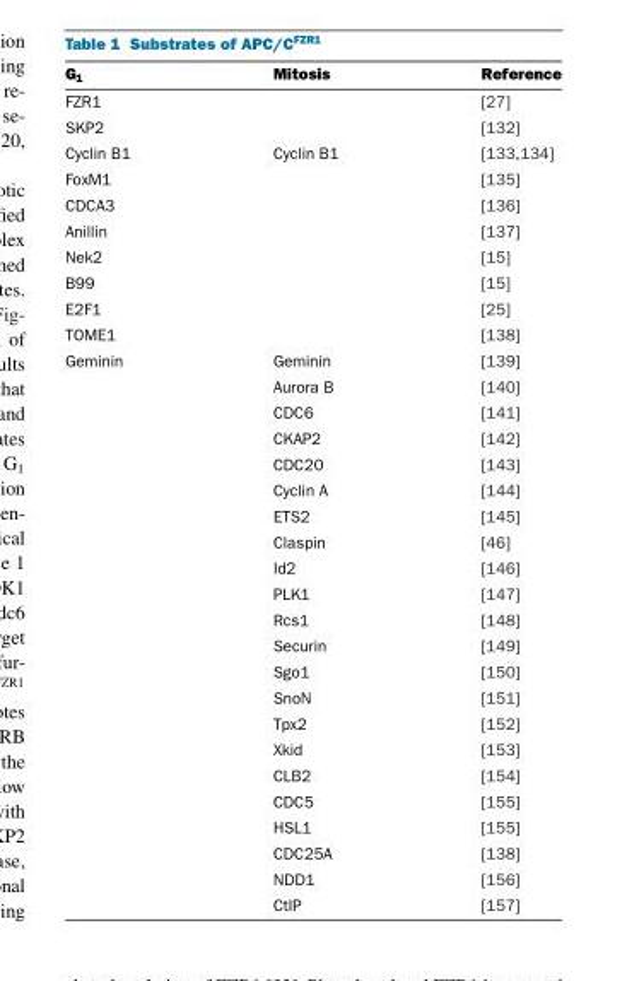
<table><thead><tr><td>G<sub>1</sub></td><td>Mitosis</td><td>Reference</td></tr></thead><tbody><tr><td>FZR1</td><td></td><td>[27]</td></tr><tr><td>SKP2</td><td></td><td>[132]</td></tr><tr><td>Cyclin B1</td><td>Cyclin B1</td><td>[133,134]</td></tr><tr><td>FoxM1</td><td></td><td>[135]</td></tr><tr><td>CDCA3</td><td></td><td>[136]</td></tr><tr><td>Anillin</td><td></td><td>[137]</td></tr><tr><td>Nek2</td><td></td><td>[15]</td></tr><tr><td>B99</td><td></td><td>[15]</td></tr><tr><td>E2F1</td><td></td><td>[25]</td></tr><tr><td>TOME1</td><td></td><td>[138]</td></tr><tr><td rowspan="22">Geminin</td><td>Geminin</td><td>[139]</td></tr><tr><td>Aurora B</td><td>[140]</td></tr><tr><td>CDC6</td><td>[141]</td></tr><tr><td>CKAP2</td><td>[142]</td></tr><tr><td>CDC20</td><td>[143]</td></tr><tr><td>Cyclin A</td><td>[144]</td></tr><tr><td>ETS2</td><td>[145]</td></tr><tr><td>Claspin</td><td>[46]</td></tr><tr><td>Id2</td><td>[146]</td></tr><tr><td>PLK1</td><td>[147]</td></tr><tr><td>Rcs1</td><td>[148]</td></tr><tr><td>Securin</td><td>[149]</td></tr><tr><td>Sgo1</td><td>[150]</td></tr><tr><td>SnoN</td><td>[151]</td></tr><tr><td>Tpx2</td><td>[152]</td></tr><tr><td>Xkid</td><td>[153]</td></tr><tr><td>CLB2</td><td>[154]</td></tr><tr><td>CDC5</td><td>[155]</td></tr><tr><td>HSL1</td><td>[155]</td></tr><tr><td>CDC25A</td><td>[138]</td></tr><tr><td>NDD1</td><td>[156]</td></tr><tr><td>CtIP</td><td>[157]</td></tr></tbody></table>